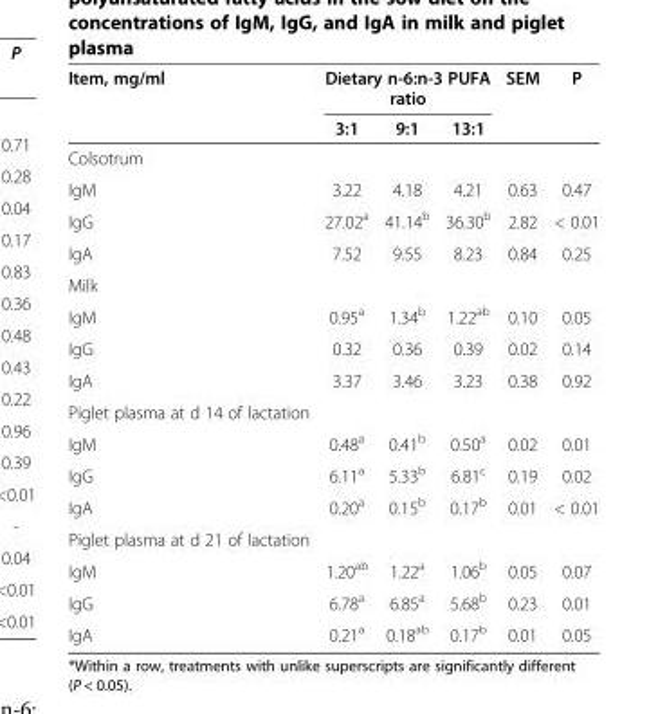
<table><thead><tr><td rowspan="2">Item, mg/ml</td><td colspan="3">Dietary n-6:n-3 PUFA ratio</td><td rowspan="2">SEM</td><td rowspan="2">P</td></tr><tr><td>3:1</td><td>9:1</td><td>13:1</td></tr></thead><tbody><tr><td colspan="6">Colsotrum</td></tr><tr><td>IgM</td><td>3.22</td><td>4.18</td><td>4.21</td><td>0.63</td><td>0.47</td></tr><tr><td>IgG</td><td>27.02<sup>a</sup></td><td>41.14<sup>b</sup></td><td>36.30<sup>b</sup></td><td>2.82</td><td>&lt; 0.01</td></tr><tr><td>IgA</td><td>7.52</td><td>9.55</td><td>8.23</td><td>0.84</td><td>0.25</td></tr><tr><td colspan="6">Milk</td></tr><tr><td>IgM</td><td>0.95<sup>a</sup></td><td>1.34<sup>b</sup></td><td>1.22<sup>ab</sup></td><td>0.10</td><td>0.05</td></tr><tr><td>IgG</td><td>0.32</td><td>0.36</td><td>0.39</td><td>0.02</td><td>0.14</td></tr><tr><td>IgA</td><td>3.37</td><td>3.46</td><td>3.23</td><td>0.38</td><td>0.92</td></tr><tr><td colspan="6">Piglet plasma at d 14 of lactation</td></tr><tr><td>IgM</td><td>0.48<sup>a</sup></td><td>0.41<sup>b</sup></td><td>0.50<sup>a</sup></td><td>0.02</td><td>0.01</td></tr><tr><td>IgG</td><td>6.11<sup>a</sup></td><td>5.33<sup>b</sup></td><td>6.81<sup>c</sup></td><td>0.19</td><td>0.02</td></tr><tr><td>IgA</td><td>0.20<sup>a</sup></td><td>0.15<sup>b</sup></td><td>0.17<sup>b</sup></td><td>0.01</td><td>&lt; 0.01</td></tr><tr><td colspan="6">Piglet plasma at d 21 of lactation</td></tr><tr><td>IgM</td><td>1.20<sup>ab</sup></td><td>1.22<sup>a</sup></td><td>1.06<sup>b</sup></td><td>0.05</td><td>0.07</td></tr><tr><td>IgG</td><td>6.78<sup>a</sup></td><td>6.85<sup>a</sup></td><td>5.68<sup>b</sup></td><td>0.23</td><td>0.01</td></tr><tr><td>IgA</td><td>0.21<sup>a</sup></td><td>0.18<sup>ab</sup></td><td>0.17<sup>b</sup></td><td>0.01</td><td>0.05</td></tr></tbody></table>